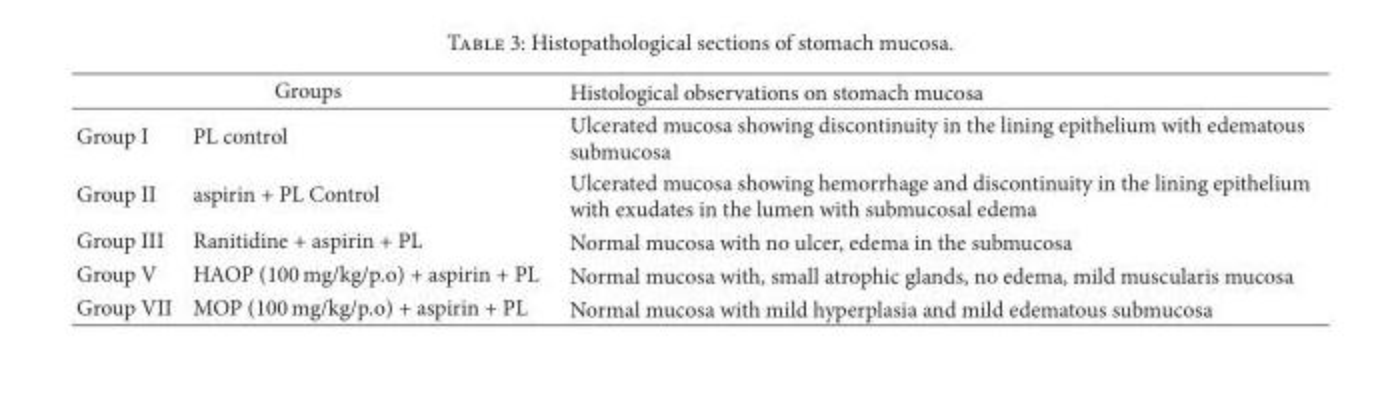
<table><thead><tr><td colspan="2">Groups</td><td rowspan="2">Histological observations on stomach mucosa Ulcerated mucosa showing discontinuity in the lining epithelium with edematous submucosa</td></tr><tr><td>Group I</td><td>PL control</td></tr></thead><tbody><tr><td>Group II</td><td>aspirin + PL Control</td><td>Ulcerated mucosa showing hemorrhage and discontinuity in the lining epithelium with exudates in the lumen with submucosal edema</td></tr><tr><td>Group III</td><td>Ranitidine + aspirin + PL</td><td>Normal mucosa with no ulcer, edema in the submucosa</td></tr><tr><td>Group V</td><td>HAOP (100 mg/kg/p.o) + aspirin + PL</td><td>Normal mucosa with, small atrophic glands, no edema, mild muscularis mucosa</td></tr><tr><td>Group VII</td><td>MOP (100 mg/kg/p.o) + aspirin + PL</td><td>Normal mucosa with mild hyperplasia and mild edematous submucosa</td></tr></tbody></table>